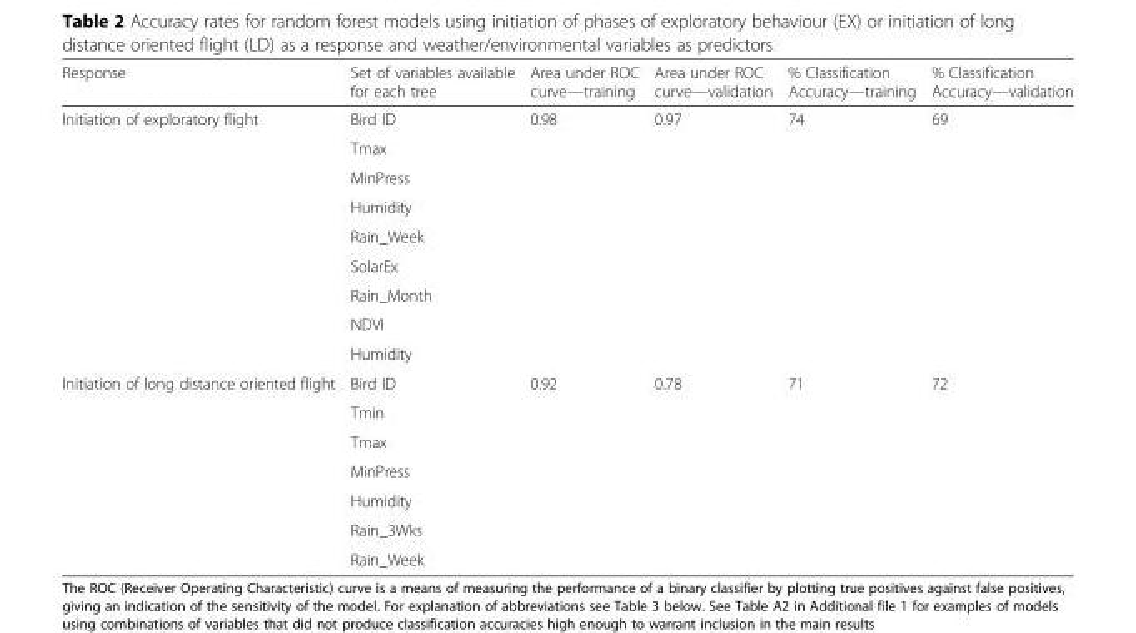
<table><thead><tr><td>Response</td><td>Set of variables available for each tree</td><td>Area under ROC curve—training</td><td>Area under ROC curve—validation</td><td>% Classification Accuracy—training</td><td>% Classification Accuracy—validation</td></tr></thead><tbody><tr><td rowspan="9">Initiation of exploratory flight</td><td>Bird ID</td><td rowspan="9">0.98</td><td rowspan="9">0.97</td><td rowspan="9">74</td><td rowspan="9">69</td></tr><tr><td>Tmax</td></tr><tr><td>MinPress</td></tr><tr><td>Humidity</td></tr><tr><td>Rain_Week</td></tr><tr><td>SolarEx</td></tr><tr><td>Rain_Month</td></tr><tr><td>NDVI</td></tr><tr><td>Humidity</td></tr><tr><td rowspan="7">Initiation of long distance oriented flight</td><td>Bird ID</td><td rowspan="7">0.92</td><td rowspan="7">0.78</td><td rowspan="7">71</td><td rowspan="7">72</td></tr><tr><td>Tmin</td></tr><tr><td>Tmax</td></tr><tr><td>MinPress</td></tr><tr><td>Humidity</td></tr><tr><td>Rain_3Wks</td></tr><tr><td>Rain_Week</td></tr></tbody></table>